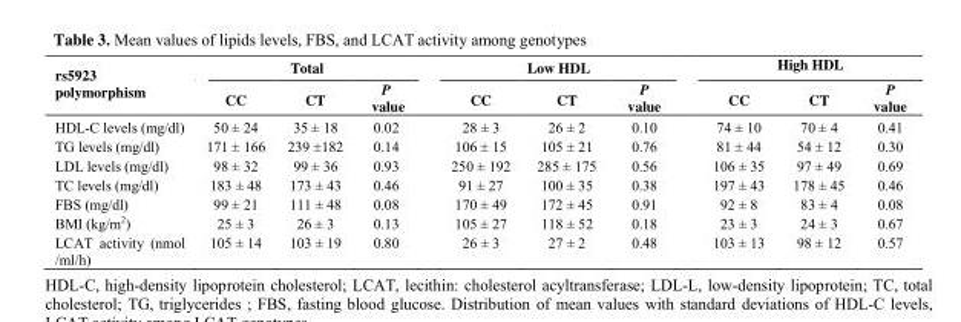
<table><thead><tr><td rowspan="2">rs5923 polymorphism</td><td colspan="3">Total</td><td colspan="3">Low HDL</td><td colspan="3">High HDL</td></tr><tr><td>CC</td><td>CT</td><td>P value</td><td>CC</td><td>CT</td><td>P value</td><td>CC</td><td>CT</td><td>P value</td></tr></thead><tbody><tr><td>HDL-C levels (mg/dl)</td><td>50 ± 24</td><td>35 ± 18</td><td>0.02</td><td>28 ± 3</td><td>26 ± 2</td><td>0.10</td><td>74 ± 10</td><td>70 ± 4</td><td>0.41</td></tr><tr><td>TG levels (mg/dl)</td><td>171 ± 166</td><td>239 ±182</td><td>0.14</td><td>106 ± 15</td><td>105 ± 21</td><td>0.76</td><td>81 ± 44</td><td>54 ± 12</td><td>0.30</td></tr><tr><td>LDL levels (mg/dl)</td><td>98 ± 32</td><td>99 ± 36</td><td>0.93</td><td>250 ± 192</td><td>285 ± 175</td><td>0.56</td><td>106 ± 35</td><td>97 ± 49</td><td>0.69</td></tr><tr><td>TC levels (mg/dl)</td><td>183 ± 48</td><td>173 ± 43</td><td>0.46</td><td>91 ± 27</td><td>100 ± 35</td><td>0.38</td><td>197 ± 43</td><td>178 ± 45</td><td>0.46</td></tr><tr><td>FBS (mg/dl)</td><td>99 ± 21</td><td>111 ± 48</td><td>0.08</td><td>170 ± 49</td><td>172 ± 45</td><td>0.91</td><td>92 ± 8</td><td>83 ± 4</td><td>0.08</td></tr><tr><td>BMI (kg/m<sup>2</sup>)</td><td>25 ± 3</td><td>26 ± 3</td><td>0.13</td><td>105 ± 27</td><td>118 ± 52</td><td>0.18</td><td>23 ± 3</td><td>24 ± 3</td><td>0.67</td></tr><tr><td>LCAT activity (nmol /ml/h)</td><td>105 ± 14</td><td>103 ± 19</td><td>0.80</td><td>26 ± 3</td><td>27 ± 2</td><td>0.48</td><td>103 ± 13</td><td>98 ± 12</td><td>0.57</td></tr></tbody></table>